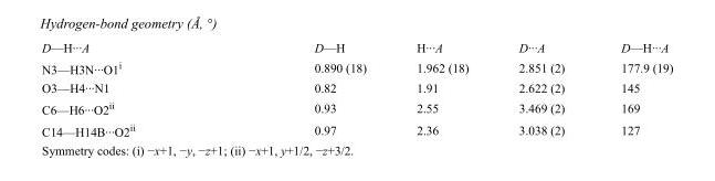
<table><tbody><tr><td>D—H···A</td><td>D—H</td><td>H···A</td><td>D···A</td><td>D—H···A</td></tr><tr><td>N3—H3N···O1<sup>i</sup></td><td>0.890 (18)</td><td>1.962 (18)</td><td>2.851 (2)</td><td>177.9 (19)</td></tr><tr><td>O3—H4···N1</td><td>0.82</td><td>1.91</td><td>2.622 (2)</td><td>145</td></tr><tr><td>C6—H6···O2<sup>ii</sup></td><td>0.93</td><td>2.55</td><td>3.469 (2)</td><td>169</td></tr><tr><td>C14—H14B···O2<sup>ii</sup></td><td>0.97</td><td>2.36</td><td>3.038 (2)</td><td>127</td></tr></tbody></table>